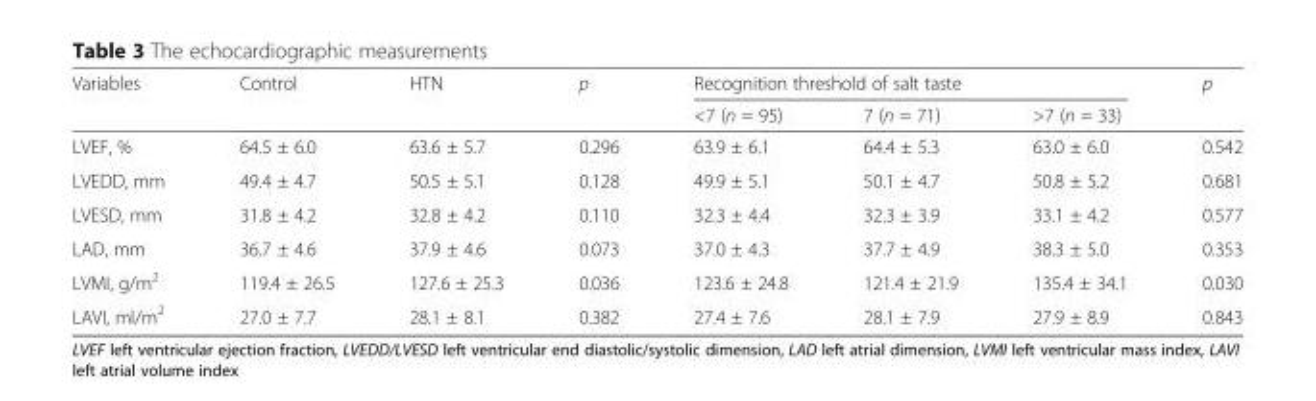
<table><thead><tr><td rowspan="2">Variables</td><td rowspan="2">Control</td><td rowspan="2">HTN</td><td rowspan="2">p</td><td colspan="3">Recognition threshold of salt taste</td><td rowspan="2">p</td></tr><tr><td>&lt;7 (n = 95)</td><td>7 (n = 71)</td><td>&gt;7 (n = 33)</td></tr></thead><tbody><tr><td>LVEF, %</td><td>64.5 ± 6.0</td><td>63.6 ± 5.7</td><td>0.296</td><td>63.9 ± 6.1</td><td>64.4 ± 5.3</td><td>63.0 ± 6.0</td><td>0.542</td></tr><tr><td>LVEDD, mm</td><td>49.4 ± 4.7</td><td>50.5 ± 5.1</td><td>0.128</td><td>49.9 ± 5.1</td><td>50.1 ± 4.7</td><td>50.8 ± 5.2</td><td>0.681</td></tr><tr><td>LVESD, mm</td><td>31.8 ± 4.2</td><td>32.8 ± 4.2</td><td>0.110</td><td>32.3 ± 4.4</td><td>32.3 ± 3.9</td><td>33.1 ± 4.2</td><td>0.577</td></tr><tr><td>LAD, mm</td><td>36.7 ± 4.6</td><td>37.9 ± 4.6</td><td>0.073</td><td>37.0 ± 4.3</td><td>37.7 ± 4.9</td><td>38.3 ± 5.0</td><td>0.353</td></tr><tr><td>LVMI, g/m<sup>2</sup></td><td>119.4 ± 26.5</td><td>127.6 ± 25.3</td><td>0.036</td><td>123.6 ± 24.8</td><td>121.4 ± 21.9</td><td>135.4 ± 34.1</td><td>0.030</td></tr><tr><td>LAVI, ml/m<sup>2</sup></td><td>27.0 ± 7.7</td><td>28.1 ± 8.1</td><td>0.382</td><td>27.4 ± 7.6</td><td>28.1 ± 7.9</td><td>27.9 ± 8.9</td><td>0.843</td></tr></tbody></table>